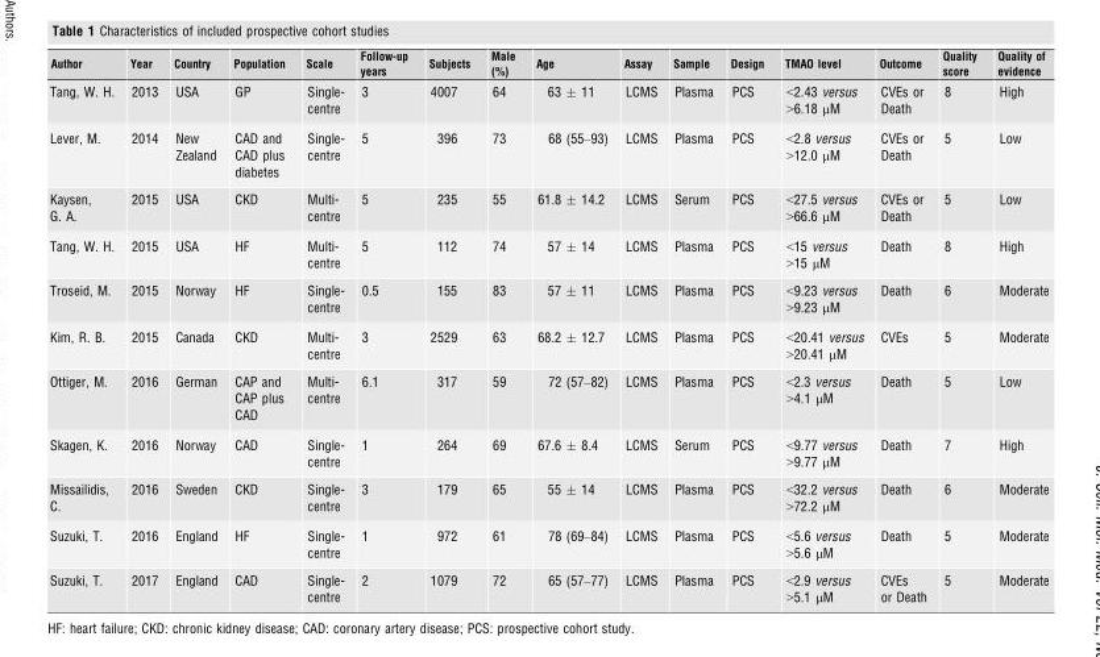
<table><thead><tr><td>Author</td><td>Year</td><td>Country</td><td>Population</td><td>Scale</td><td>Follow-up years</td><td>Subjects</td><td>Male (%)</td><td>Age</td><td>Assay</td><td>Sample</td><td>Design</td><td>TMAO level</td><td>Outcome</td><td>Quality score</td><td>Quality of evidence</td></tr></thead><tbody><tr><td>Tang, W. H.</td><td>2013</td><td>USA</td><td>GP</td><td>Single- centre</td><td>3</td><td>4007</td><td>64</td><td>63 ± 11</td><td>LCMS</td><td>Plasma</td><td>PCS</td><td>&lt;2.43 versus &gt;6.18 μM</td><td>CVEs or Death</td><td>8</td><td>High</td></tr><tr><td>Lever, M.</td><td>2014</td><td>New Zealand</td><td>CAD and CAD plus diabetes</td><td>Single- centre</td><td>5</td><td>396</td><td>73</td><td>68 (55–93)</td><td>LCMS</td><td>Plasma</td><td>PCS</td><td>&lt;2.8 versus &gt;12.0 μM</td><td>CVEs or Death</td><td>5</td><td>Low</td></tr><tr><td>Kaysen, G. A.</td><td>2015</td><td>USA</td><td>CKD</td><td>Multi- centre</td><td>5</td><td>235</td><td>55</td><td>61.8 ± 14.2</td><td>LCMS</td><td>Serum</td><td>PCS</td><td>&lt;27.5 versus &gt;66.6 μM</td><td>CVEs or Death</td><td>5</td><td>Low</td></tr><tr><td>Tang, W. H.</td><td>2015</td><td>USA</td><td>HF</td><td>Multi- centre</td><td>5</td><td>112</td><td>74</td><td>57 ± 14</td><td>LCMS</td><td>Plasma</td><td>PCS</td><td>&lt;15 versus &gt;15 μM</td><td>Death</td><td>8</td><td>High</td></tr><tr><td>Troseid, M.</td><td>2015</td><td>Norway</td><td>HF</td><td>Single- centre</td><td>0.5</td><td>155</td><td>83</td><td>57 ± 11</td><td>LCMS</td><td>Plasma</td><td>PCS</td><td>&lt;9.23 versus &gt;9.23 μM</td><td>Death</td><td>6</td><td>Moderate</td></tr><tr><td>Kim, R. B.</td><td>2015</td><td>Canada</td><td>CKD</td><td>Multi- centre</td><td>3</td><td>2529</td><td>63</td><td>68.2 ± 12.7</td><td>LCMS</td><td>Plasma</td><td>PCS</td><td>&lt;20.41 versus &gt;20.41 μM</td><td>CVEs</td><td>5</td><td>Moderate</td></tr><tr><td>Ottiger, M.</td><td>2016</td><td>German</td><td>CAP and CAP plus CAD</td><td>Multi- centre</td><td>6.1</td><td>317</td><td>59</td><td>72 (57–82)</td><td>LCMS</td><td>Plasma</td><td>PCS</td><td>&lt;2.3 versus &gt;4.1 μM</td><td>Death</td><td>5</td><td>Low</td></tr><tr><td>Skagen, K.</td><td>2016</td><td>Norway</td><td>CAD</td><td>Single- centre</td><td>1</td><td>264</td><td>69</td><td>67.6 ± 8.4</td><td>LCMS</td><td>Serum</td><td>PCS</td><td>&lt;9.77 versus &gt;9.77 μM</td><td>Death</td><td>7</td><td>High</td></tr><tr><td>Missailidis, C.</td><td>2016</td><td>Sweden</td><td>CKD</td><td>Single- centre</td><td>3</td><td>179</td><td>65</td><td>55 ± 14</td><td>LCMS</td><td>Plasma</td><td>PCS</td><td>&lt;32.2 versus &gt;72.2 μM</td><td>Death</td><td>6</td><td>Moderate</td></tr><tr><td>Suzuki, T.</td><td>2016</td><td>England</td><td>HF</td><td>Single- centre</td><td>1</td><td>972</td><td>61</td><td>78 (69–84)</td><td>LCMS</td><td>Plasma</td><td>PCS</td><td>&lt;5.6 versus &gt;5.6 μM</td><td>Death</td><td>5</td><td>Moderate</td></tr><tr><td>Suzuki, T.</td><td>2017</td><td>England</td><td>CAD</td><td>Single- centre</td><td>2</td><td>1079</td><td>72</td><td>65 (57–77)</td><td>LCMS</td><td>Plasma</td><td>PCS</td><td>&lt;2.9 versus &gt;5.1 μM</td><td>CVEs or Death</td><td>5</td><td>Moderate</td></tr></tbody></table>